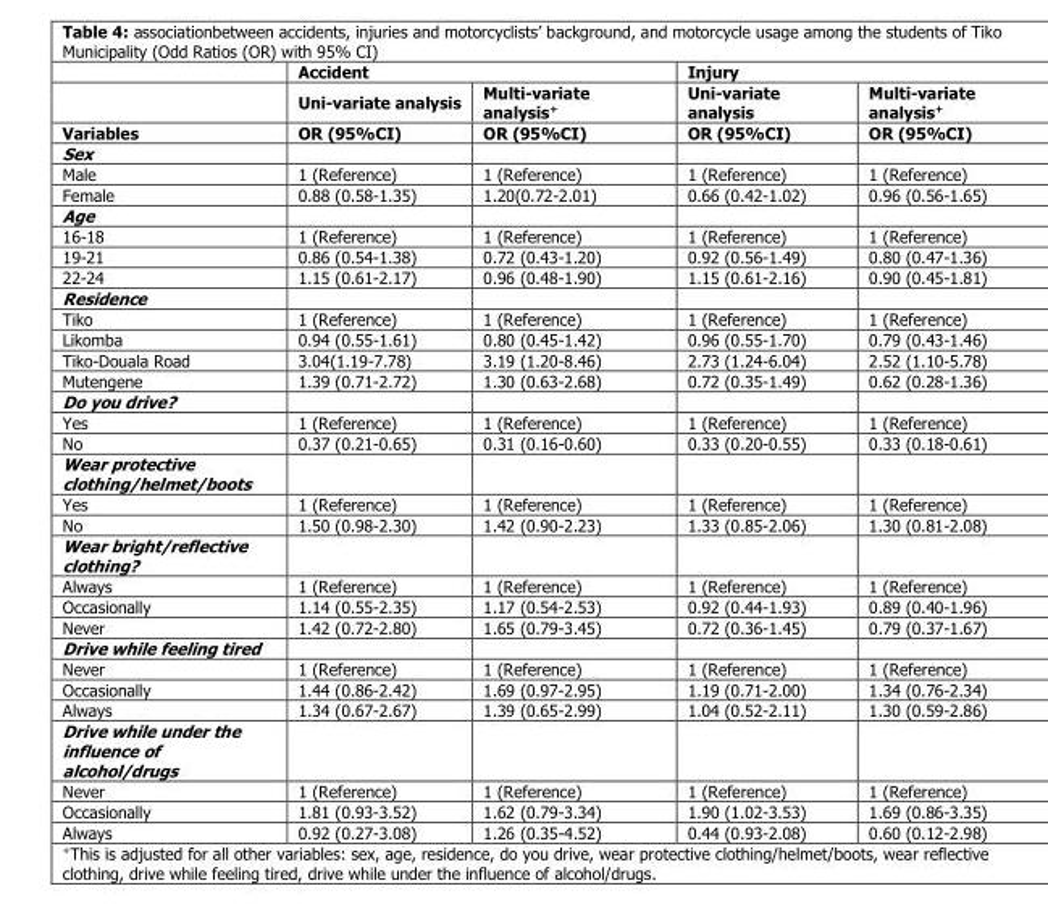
<table><thead><tr><td rowspan="3">Variables</td><td colspan="2">Accident</td><td colspan="2">Injury</td></tr><tr><td rowspan="2">Uni-variate analysis OR (95%CI)</td><td rowspan="2">Multi-variate analysis+ OR (95%CI)</td><td rowspan="2">Uni-variate analysis OR (95%CI)</td><td rowspan="2">Multi-variate analysis+ OR (95%CI)</td></tr><tr></tr></thead><tbody><tr><td colspan="5">Sex</td></tr><tr><td>Male</td><td>1 (Reference)</td><td>1 (Reference)</td><td>1 (Reference)</td><td>1 (Reference)</td></tr><tr><td>Female</td><td>0.88 (0.58-1.35)</td><td>1.20(0.72-2.01)</td><td>0.66 (0.42-1.02)</td><td>0.96 (0.56-1.65)</td></tr><tr><td colspan="5">Age</td></tr><tr><td>16-18</td><td>1 (Reference)</td><td>1 (Reference)</td><td>1 (Reference)</td><td>1 (Reference)</td></tr><tr><td>19-21</td><td>0.86 (0.54-1.38)</td><td>0.72 (0.43-1.20)</td><td>0.92 (0.56-1.49)</td><td>0.80 (0.47-1.36)</td></tr><tr><td>22-24</td><td>1.15 (0.61-2.17)</td><td>0.96 (0.48-1.90)</td><td>1.15 (0.61-2.16)</td><td>0.90 (0.45-1.81)</td></tr><tr><td colspan="5">Residence</td></tr><tr><td>Tiko</td><td>1 (Reference)</td><td>1 (Reference)</td><td>1 (Reference)</td><td>1 (Reference)</td></tr><tr><td>Likomba</td><td>0.94 (0.55-1.61)</td><td>0.80 (0.45-1.42)</td><td>0.96 (0.55-1.70)</td><td>0.79 (0.43-1.46)</td></tr><tr><td>Tiko-Douala Road</td><td>3.04(1.19-7.78)</td><td>3.19 (1.20-8.46)</td><td>2.73 (1.24-6.04)</td><td>2.52 (1.10-5.78)</td></tr><tr><td>Mutengene</td><td>1.39 (0.71-2.72)</td><td>1.30 (0.63-2.68)</td><td>0.72 (0.35-1.49)</td><td>0.62 (0.28-1.36)</td></tr><tr><td colspan="5">Do you drive?</td></tr><tr><td>Yes</td><td>1 (Reference)</td><td>1 (Reference)</td><td>1 (Reference)</td><td>1 (Reference)</td></tr><tr><td>No</td><td>0.37 (0.21-0.65)</td><td>0.31 (0.16-0.60)</td><td>0.33 (0.20-0.55)</td><td>0.33 (0.18-0.61)</td></tr><tr><td colspan="5">Wear protective clothing/helmet/boots</td></tr><tr><td>Yes</td><td>1 (Reference)</td><td>1 (Reference)</td><td>1 (Reference)</td><td>1 (Reference)</td></tr><tr><td>No</td><td>1.50 (0.98-2.30)</td><td>1.42 (0.90-2.23)</td><td>1.33 (0.85-2.06)</td><td>1.30 (0.81-2.08)</td></tr><tr><td colspan="5">Wear bright/reflective clothing?</td></tr><tr><td>Always</td><td>1 (Reference)</td><td>1 (Reference)</td><td>1 (Reference)</td><td>1 (Reference)</td></tr><tr><td>Occasionally</td><td>1.14 (0.55-2.35)</td><td>1.17 (0.54-2.53)</td><td>0.92 (0.44-1.93)</td><td>0.89 (0.40-1.96)</td></tr><tr><td>Never</td><td>1.42 (0.72-2.80)</td><td>1.65 (0.79-3.45)</td><td>0.72 (0.36-1.45)</td><td>0.79 (0.37-1.67)</td></tr><tr><td colspan="5">Drive while feeling tired</td></tr><tr><td>Never</td><td>1 (Reference)</td><td>1 (Reference)</td><td>1 (Reference)</td><td>1 (Reference)</td></tr><tr><td>Occasionally</td><td>1.44 (0.86-2.42)</td><td>1.69 (0.97-2.95)</td><td>1.19 (0.71-2.00)</td><td>1.34 (0.76-2.34)</td></tr><tr><td>Always</td><td>1.34 (0.67-2.67)</td><td>1.39 (0.65-2.99)</td><td>1.04 (0.52-2.11)</td><td>1.30 (0.59-2.86)</td></tr><tr><td colspan="5">Drive while under the influence of alcohol/drugs</td></tr><tr><td>Never</td><td>1 (Reference)</td><td>1 (Reference)</td><td>1 (Reference)</td><td>1 (Reference)</td></tr><tr><td>Occasionally</td><td>1.81 (0.93-3.52)</td><td>1.62 (0.79-3.34)</td><td>1.90 (1.02-3.53)</td><td>1.69 (0.86-3.35)</td></tr><tr><td>Always</td><td>0.92 (0.27-3.08)</td><td>1.26 (0.35-4.52)</td><td>0.44 (0.93-2.08)</td><td>0.60 (0.12-2.98)</td></tr></tbody></table>